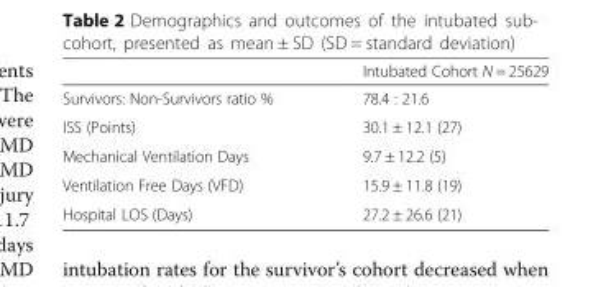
<table><thead><tr><td></td><td>Intubated Cohort N = 25629</td></tr></thead><tbody><tr><td>Survivors: Non-Survivors ratio %</td><td>78.4 : 21.6</td></tr><tr><td>ISS (Points)</td><td>30.1 ± 12.1 (27)</td></tr><tr><td>Mechanical Ventilation Days</td><td>9.7 ± 12.2 (5)</td></tr><tr><td>Ventilation Free Days (VFD)</td><td>15.9 ± 11.8 (19)</td></tr><tr><td>Hospital LOS (Days)</td><td>27.2 ± 26.6 (21)</td></tr></tbody></table>